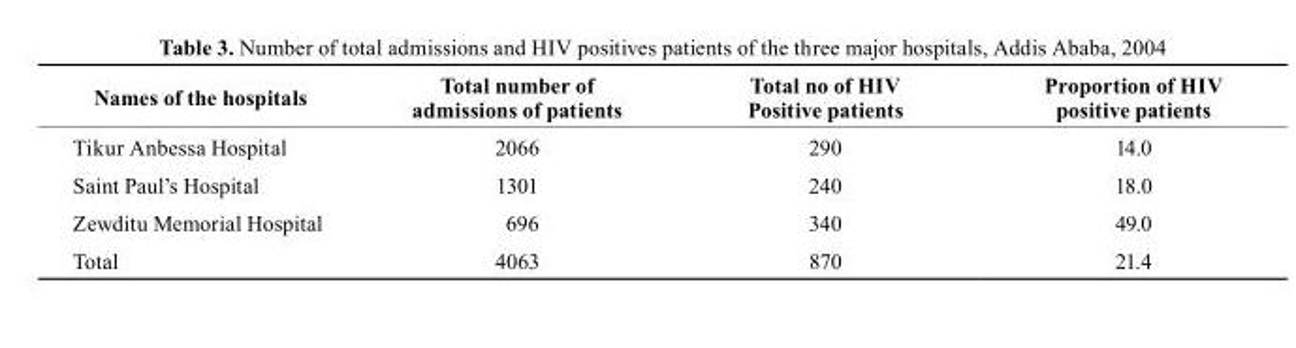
<table><thead><tr><td>names of the hospitals</td><td>total number of admissions of patients</td><td>total no of HIV Positive patients</td><td>Proportion of HIV positive patients</td></tr></thead><tbody><tr><td>Tikur Anbessa Hospital</td><td>2066</td><td>290</td><td>14.0</td></tr><tr><td>Saint Paul’s Hospital</td><td>1301</td><td>240</td><td>18.0</td></tr><tr><td>Zewditu Memorial Hospital</td><td>696</td><td>340</td><td>49.0</td></tr><tr><td>Total</td><td>4063</td><td>870</td><td>21.4</td></tr></tbody></table>